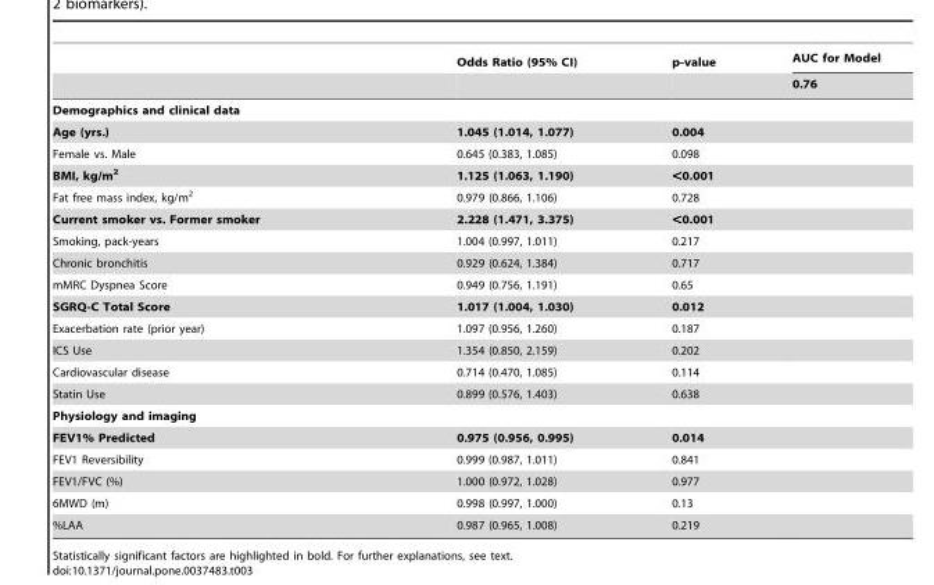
<table><thead><tr><td rowspan="2"></td><td rowspan="2">Odds Ratio (95% CI)</td><td rowspan="2">p-value</td><td rowspan="2">AUC for Model 0.76</td></tr><tr></tr></thead><tbody><tr><td colspan="4">Demographics and clinical data</td></tr><tr><td>Age (yrs.)</td><td>1.045 (1.014, 1.077)</td><td>0.004</td><td></td></tr><tr><td>Female vs. Male</td><td>0.645 (0.383, 1.085)</td><td>0.098</td><td></td></tr><tr><td>BMI, kg/m<sup>2</sup></td><td>1.125 (1.063, 1.190)</td><td>&lt;0.001</td><td></td></tr><tr><td>Fat free mass index, kg/m<sup>2</sup></td><td>0.979 (0.866, 1.106)</td><td>0.728</td><td></td></tr><tr><td>Current smoker vs. Former smoker</td><td>2.228 (1.471, 3.375)</td><td>&lt;0.001</td><td></td></tr><tr><td>Smoking, pack-years</td><td>1.004 (0.997, 1.011)</td><td>0.217</td><td></td></tr><tr><td>Chronic bronchitis</td><td>0.929 (0.624, 1.384)</td><td>0.717</td><td></td></tr><tr><td>mMRC Dyspnea Score</td><td>0.949 (0.756, 1.191)</td><td>0.65</td><td></td></tr><tr><td>SGRQ-C Total Score</td><td>1.017 (1.004, 1.030)</td><td>0.012</td><td></td></tr><tr><td>Exacerbation rate (prior year)</td><td>1.097 (0.956, 1.260)</td><td>0.187</td><td></td></tr><tr><td>ICS Use</td><td>1.354 (0.850, 2.159)</td><td>0.202</td><td></td></tr><tr><td>Cardiovascular disease</td><td>0.714 (0.470, 1.085)</td><td>0.114</td><td></td></tr><tr><td>Statin Use</td><td>0.899 (0.576, 1.403)</td><td>0.638</td><td></td></tr><tr><td colspan="4">Physiology and imaging</td></tr><tr><td>FEV1% Predicted</td><td>0.975 (0.956, 0.995)</td><td>0.014</td><td></td></tr><tr><td>FEV1 Reversibility</td><td>0.999 (0.987, 1.011)</td><td>0.841</td><td></td></tr><tr><td>FEV1/FVC (%)</td><td>1.000 (0.972, 1.028)</td><td>0.977</td><td></td></tr><tr><td>6MWD (m)</td><td>0.998 (0.997, 1.000)</td><td>0.13</td><td></td></tr><tr><td>%LAA</td><td>0.987 (0.965, 1.008)</td><td>0.219</td><td></td></tr></tbody></table>